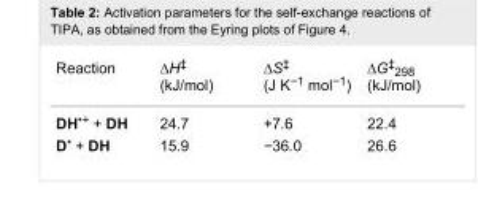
<table><tbody><tr><td>Reaction</td><td>∆H<sup>‡</sup> (kJ/mol)</td><td>∆S<sup>‡</sup> (J K<sup>−1</sup> mol<sup>−1</sup>)</td><td>∆G<sup>‡</sup><sub>298</sub> (kJ/mol)</td></tr><tr><td>DH<sup>•+</sup> + DH</td><td>24.7</td><td>+7.6</td><td>22.4</td></tr><tr><td>D<sup>•</sup> + DH</td><td>15.9</td><td>−36.0</td><td>26.6</td></tr></tbody></table>